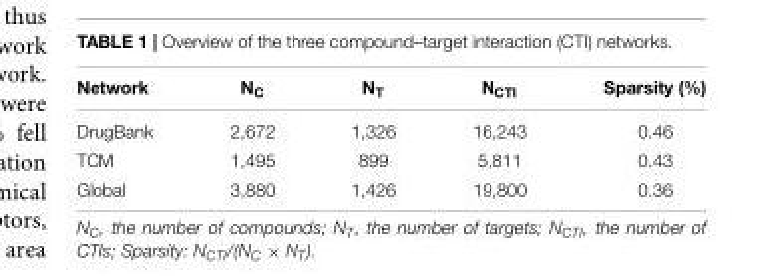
<table><thead><tr><td>Network</td><td>N<sub>C</sub></td><td>N<sub>T</sub></td><td>N<sub>CTI</sub></td><td>Sparsity (%)</td></tr></thead><tbody><tr><td>DrugBank</td><td>2,672</td><td>1,326</td><td>16,243</td><td>0.46</td></tr><tr><td>TCM</td><td>1,495</td><td>899</td><td>5,811</td><td>0.43</td></tr><tr><td>Global</td><td>3,880</td><td>1,426</td><td>19,800</td><td>0.36</td></tr></tbody></table>